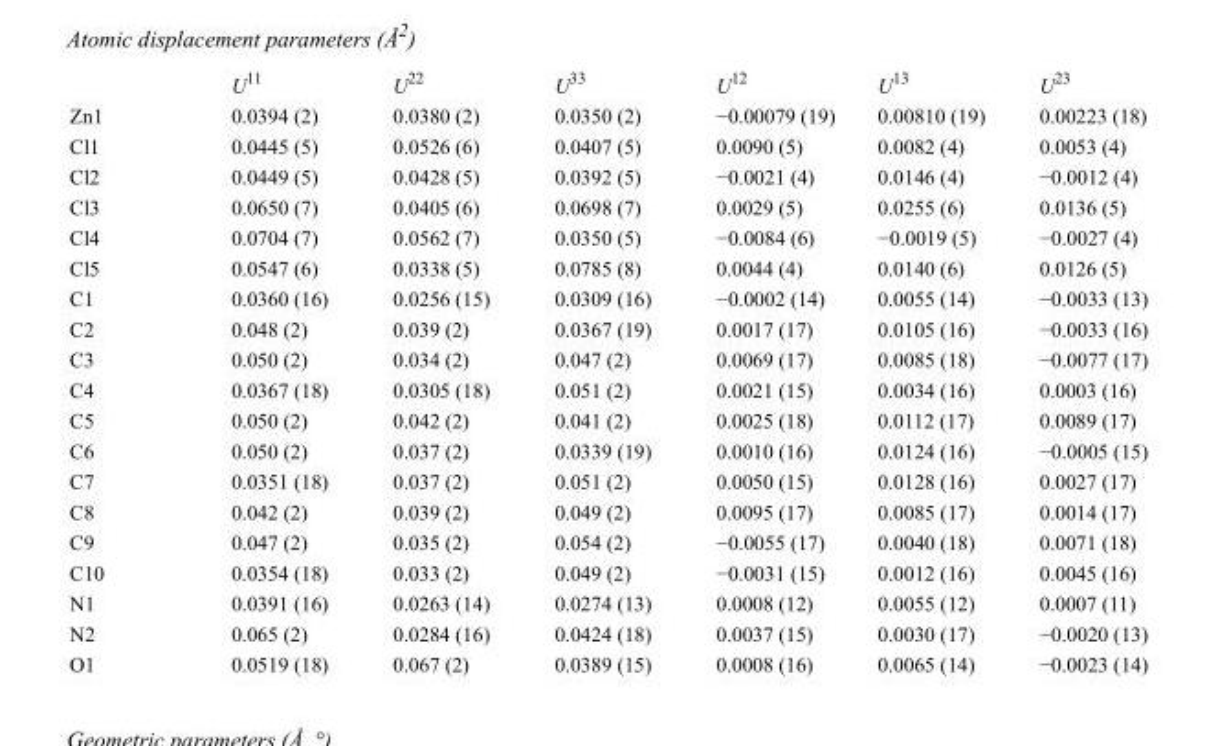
<table><thead><tr><td></td><td>U<sup>11</sup></td><td>U<sup>22</sup></td><td>U<sup>33</sup></td><td>U<sup>12</sup></td><td>U<sup>13</sup></td><td>U<sup>23</sup></td></tr></thead><tbody><tr><td>Zn1</td><td>0.0394 (2)</td><td>0.0380 (2)</td><td>0.0350 (2)</td><td>−0.00079 (19)</td><td>0.00810 (19)</td><td>0.00223 (18)</td></tr><tr><td>Cl1</td><td>0.0445 (5)</td><td>0.0526 (6)</td><td>0.0407 (5)</td><td>0.0090 (5)</td><td>0.0082 (4)</td><td>0.0053 (4)</td></tr><tr><td>Cl2</td><td>0.0449 (5)</td><td>0.0428 (5)</td><td>0.0392 (5)</td><td>−0.0021 (4)</td><td>0.0146 (4)</td><td>−0.0012 (4)</td></tr><tr><td>Cl3</td><td>0.0650 (7)</td><td>0.0405 (6)</td><td>0.0698 (7)</td><td>0.0029 (5)</td><td>0.0255 (6)</td><td>0.0136 (5)</td></tr><tr><td>Cl4</td><td>0.0704 (7)</td><td>0.0562 (7)</td><td>0.0350 (5)</td><td>−0.0084 (6)</td><td>−0.0019 (5)</td><td>−0.0027 (4)</td></tr><tr><td>Cl5</td><td>0.0547 (6)</td><td>0.0338 (5)</td><td>0.0785 (8)</td><td>0.0044 (4)</td><td>0.0140 (6)</td><td>0.0126 (5)</td></tr><tr><td>C1</td><td>0.0360 (16)</td><td>0.0256 (15)</td><td>0.0309 (16)</td><td>−0.0002 (14)</td><td>0.0055 (14)</td><td>−0.0033 (13)</td></tr><tr><td>C2</td><td>0.048 (2)</td><td>0.039 (2)</td><td>0.0367 (19)</td><td>0.0017 (17)</td><td>0.0105 (16)</td><td>−0.0033 (16)</td></tr><tr><td>C3</td><td>0.050 (2)</td><td>0.034 (2)</td><td>0.047 (2)</td><td>0.0069 (17)</td><td>0.0085 (18)</td><td>−0.0077 (17)</td></tr><tr><td>C4</td><td>0.0367 (18)</td><td>0.0305 (18)</td><td>0.051 (2)</td><td>0.0021 (15)</td><td>0.0034 (16)</td><td>0.0003 (16)</td></tr><tr><td>C5</td><td>0.050 (2)</td><td>0.042 (2)</td><td>0.041 (2)</td><td>0.0025 (18)</td><td>0.0112 (17)</td><td>0.0089 (17)</td></tr><tr><td>C6</td><td>0.050 (2)</td><td>0.037 (2)</td><td>0.0339 (19)</td><td>0.0010 (16)</td><td>0.0124 (16)</td><td>−0.0005 (15)</td></tr><tr><td>C7</td><td>0.0351 (18)</td><td>0.037 (2)</td><td>0.051 (2)</td><td>0.0050 (15)</td><td>0.0128 (16)</td><td>0.0027 (17)</td></tr><tr><td>C8</td><td>0.042 (2)</td><td>0.039 (2)</td><td>0.049 (2)</td><td>0.0095 (17)</td><td>0.0085 (17)</td><td>0.0014 (17)</td></tr><tr><td>C9</td><td>0.047 (2)</td><td>0.035 (2)</td><td>0.054 (2)</td><td>−0.0055 (17)</td><td>0.0040 (18)</td><td>0.0071 (18)</td></tr><tr><td>C10</td><td>0.0354 (18)</td><td>0.033 (2)</td><td>0.049 (2)</td><td>−0.0031 (15)</td><td>0.0012 (16)</td><td>0.0045 (16)</td></tr><tr><td>N1</td><td>0.0391 (16)</td><td>0.0263 (14)</td><td>0.0274 (13)</td><td>0.0008 (12)</td><td>0.0055 (12)</td><td>0.0007 (11)</td></tr><tr><td>N2</td><td>0.065 (2)</td><td>0.0284 (16)</td><td>0.0424 (18)</td><td>0.0037 (15)</td><td>0.0030 (17)</td><td>−0.0020 (13)</td></tr><tr><td>O1</td><td>0.0519 (18)</td><td>0.067 (2)</td><td>0.0389 (15)</td><td>0.0008 (16)</td><td>0.0065 (14)</td><td>−0.0023 (14)</td></tr></tbody></table>